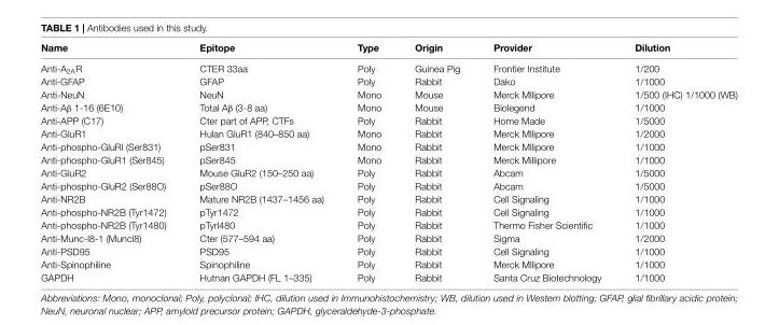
<table><thead><tr><td>Name</td><td>Epitope</td><td>Type</td><td>Origin</td><td>Provider</td><td>Dilution</td></tr></thead><tbody><tr><td>Anti-A<sub>2A</sub>R</td><td>CTER 33aa</td><td>Poly</td><td>Guinea Pig</td><td>Frontier Institute</td><td>1/200</td></tr><tr><td>Anti-GFAP</td><td>GFAP</td><td>Poly</td><td>Rabbit</td><td>Dako</td><td>1/1000</td></tr><tr><td>Anti-NeuN</td><td>NeuN</td><td>Mono</td><td>Mouse</td><td>Merck Mllipore</td><td>1/500 (IHC) 1/1000 (WB)</td></tr><tr><td>Anti-Aβ 1-16 (6E10)</td><td>Total Aβ (3-8 aa)</td><td>Mono</td><td>Mouse</td><td>Biolegend</td><td>1/1000</td></tr><tr><td>Anti-APP (C17)</td><td>Cter part of APP, CTFs</td><td>Poly</td><td>Rabbit</td><td>Home Made</td><td>1/5000</td></tr><tr><td>Anti-GluR1</td><td>Hulan GluR1 (840–850 aa)</td><td>Mono</td><td>Rabbit</td><td>Merck Mllipore</td><td>1/2000</td></tr><tr><td>Anti-phospho-GluRl (Ser831)</td><td>pSer831</td><td>Mono</td><td>Rabbit</td><td>Merck Mllipore</td><td>1/1000</td></tr><tr><td>Anti-phospho-GluR1 (Ser845)</td><td>pSer845</td><td>Mono</td><td>Rabbit</td><td>Merck Millipore</td><td>1/1000</td></tr><tr><td>Anti-GluR2</td><td>Mouse GluR2 (150–250 aa)</td><td>Poly</td><td>Rabbit</td><td>Abcam</td><td>1/5000</td></tr><tr><td>Anti-phospho-GluR2 (Ser88O)</td><td>pSer88O</td><td>Poly</td><td>Rabbit</td><td>Abcam</td><td>1/5000</td></tr><tr><td>Anti-NR2B</td><td>Mature NR2B (1437–1456 aa)</td><td>Poly</td><td>Rabbit</td><td>Cell Signaling</td><td>1/1000</td></tr><tr><td>Anti-phospho-NR2B (Tyr1472)</td><td>pTyr1472</td><td>Poly</td><td>Rabbit</td><td>Cell Signaling</td><td>1/1000</td></tr><tr><td>Anti-phospho-NR2B (Tyr1480)</td><td>pTyrl480</td><td>Poly</td><td>Rabbit</td><td>Thermo Fisher Scientific</td><td>1/1000</td></tr><tr><td>Anti-Munc-l8-1 (Muncl8)</td><td>Cter (577–594 aa)</td><td>Poly</td><td>Rabbit</td><td>Sigma</td><td>1/2000</td></tr><tr><td>Anti-PSD95</td><td>PSD95</td><td>Poly</td><td>Rabbit</td><td>Cell Signaling</td><td>1/1000</td></tr><tr><td>Anti-Spinophiline</td><td>Spinophiline</td><td>Poly</td><td>Rabbit</td><td>Merck Mllipore</td><td>1/1000</td></tr><tr><td>GAPDH</td><td>Hutnan GAPDH (FL 1–335)</td><td>Poly</td><td>Rabbit</td><td>Santa Cruz Biotechnology</td><td>1/1000</td></tr></tbody></table>